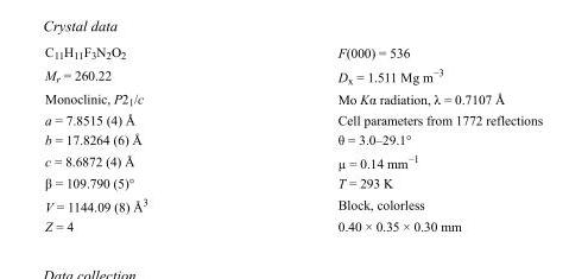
<table><tbody><tr><td>C<sub>11</sub>H<sub>11</sub>F<sub>3</sub>N<sub>2</sub>O<sub>2</sub></td><td>F(000) = 536</td></tr><tr><td>M<sub>r</sub> = 260.22</td><td>D<sub>x</sub> = 1.511 Mg m<sup>−3</sup></td></tr><tr><td>Monoclinic, P2<sub>1</sub>/c</td><td>Mo Kα radiation, λ = 0.7107 Å</td></tr><tr><td>a = 7.8515 (4) Å</td><td>Cell parameters from 1772 reflections</td></tr><tr><td>b = 17.8264 (6) Å</td><td>θ = 3.0–29.1°</td></tr><tr><td>c = 8.6872 (4) Å</td><td>µ = 0.14 mm<sup>−1</sup></td></tr><tr><td>β = 109.790 (5)°</td><td>T = 293 K</td></tr><tr><td>V = 1144.09 (8) Å<sup>3</sup></td><td>Block, colorless</td></tr><tr><td>Z = 4</td><td>0.40 × 0.35 × 0.30 mm</td></tr></tbody></table>